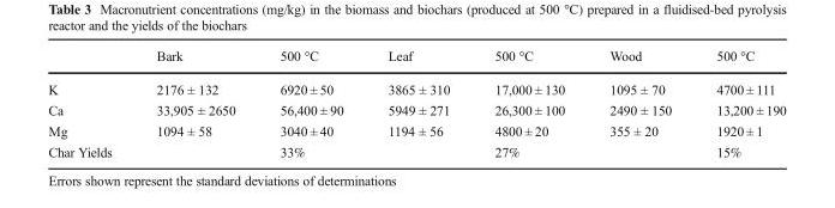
<table><thead><tr><td></td><td>Bark</td><td>500 °C</td><td>Leaf</td><td>500 °C</td><td>Wood</td><td>500 °C</td></tr></thead><tbody><tr><td>K</td><td>2176 ± 132</td><td>6920 ± 50</td><td>3865 ± 310</td><td>17,000 ± 130</td><td>1095 ± 70</td><td>4700 ± 111</td></tr><tr><td>Ca</td><td>33,905 ± 2650</td><td>56,400 ± 90</td><td>5949 ± 271</td><td>26,300 ± 100</td><td>2490 ± 150</td><td>13,200 ± 190</td></tr><tr><td>Mg</td><td>1094 ± 58</td><td>3040 ± 40</td><td>1194 ± 56</td><td>4800 ± 20</td><td>355 ± 20</td><td>1920 ± 1</td></tr><tr><td>Char Yields</td><td></td><td>33%</td><td></td><td>27%</td><td></td><td>15%</td></tr></tbody></table>